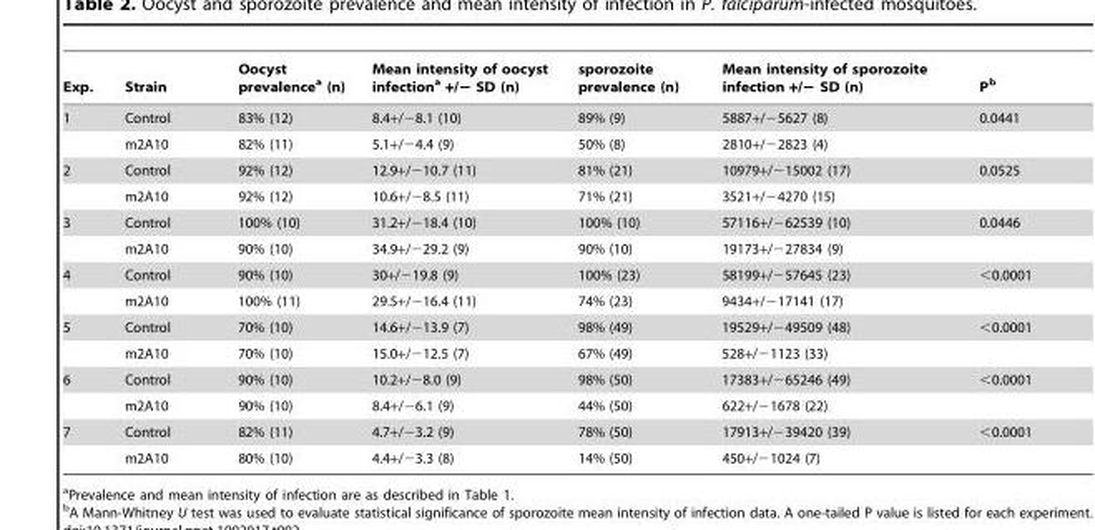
<table><thead><tr><td>Exp.</td><td>Strain</td><td>Oocyst prevalence<sup>a</sup> (n)</td><td>Mean intensity of oocyst infection<sup>a</sup> +/− SD (n)</td><td>sporozoite prevalence (n)</td><td>Mean intensity of sporozoite infection +/− SD (n)</td><td>P<sup>b</sup></td></tr></thead><tbody><tr><td rowspan="2">1</td><td>Control</td><td>83% (12)</td><td>8.4+/−8.1 (10)</td><td>89% (9)</td><td>5887+/−5627 (8)</td><td>0.0441</td></tr><tr><td>m2A10</td><td>82% (11)</td><td>5.1+/−4.4 (9)</td><td>50% (8)</td><td>2810+/−2823 (4)</td><td></td></tr><tr><td rowspan="2">2</td><td>Control</td><td>92% (12)</td><td>12.9+/−10.7 (11)</td><td>81% (21)</td><td>10979+/−15002 (17)</td><td>0.0525</td></tr><tr><td>m2A10</td><td>92% (12)</td><td>10.6+/−8.5 (11)</td><td>71% (21)</td><td>3521+/−4270 (15)</td><td></td></tr><tr><td rowspan="2">3</td><td>Control</td><td>100% (10)</td><td>31.2+/−18.4 (10)</td><td>100% (10)</td><td>57116+/−62539 (10)</td><td>0.0446</td></tr><tr><td>m2A10</td><td>90% (10)</td><td>34.9+/−29.2 (9)</td><td>90% (10)</td><td>19173+/−27834 (9)</td><td></td></tr><tr><td rowspan="2">4</td><td>Control</td><td>90% (10)</td><td>30+/−19.8 (9)</td><td>100% (23)</td><td>58199+/−57645 (23)</td><td>&lt;0.0001</td></tr><tr><td>m2A10</td><td>100% (11)</td><td>29.5+/−16.4 (11)</td><td>74% (23)</td><td>9434+/−17141 (17)</td><td></td></tr><tr><td rowspan="2">5</td><td>Control</td><td>70% (10)</td><td>14.6+/−13.9 (7)</td><td>98% (49)</td><td>19529+/−49509 (48)</td><td>&lt;0.0001</td></tr><tr><td>m2A10</td><td>70% (10)</td><td>15.0+/−12.5 (7)</td><td>67% (49)</td><td>528+/−1123 (33)</td><td></td></tr><tr><td rowspan="2">6</td><td>Control</td><td>90% (10)</td><td>10.2+/−8.0 (9)</td><td>98% (50)</td><td>17383+/−65246 (49)</td><td>&lt;0.0001</td></tr><tr><td>m2A10</td><td>90% (10)</td><td>8.4+/−6.1 (9)</td><td>44% (50)</td><td>622+/−1678 (22)</td><td></td></tr><tr><td rowspan="2">7</td><td>Control</td><td>82% (11)</td><td>4.7+/−3.2 (9)</td><td>78% (50)</td><td>17913+/−39420 (39)</td><td>&lt;0.0001</td></tr><tr><td>m2A10</td><td>80% (10)</td><td>4.4+/−3.3 (8)</td><td>14% (50)</td><td>450+/−1024 (7)</td><td></td></tr></tbody></table>